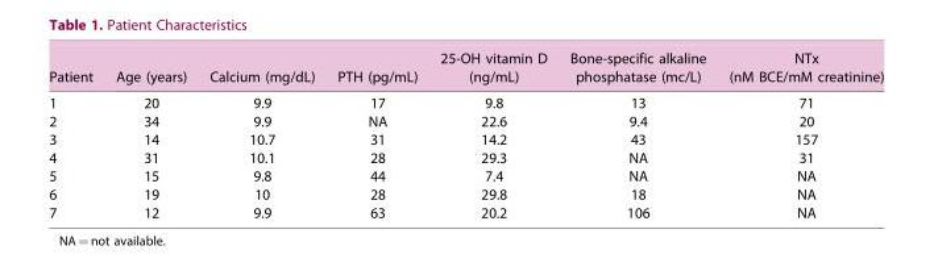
<table><thead><tr><td>Patient</td><td>Age (years)</td><td>Calcium (mg/dL)</td><td>PTH (pg/mL)</td><td>25-OH vitamin D (ng/mL)</td><td>Bone-specific alkaline phosphatase (mc/L)</td><td>NTx (nM BCE/mM creatinine)</td></tr></thead><tbody><tr><td>1</td><td>20</td><td>9.9</td><td>17</td><td>9.8</td><td>13</td><td>71</td></tr><tr><td>2</td><td>34</td><td>9.9</td><td>NA</td><td>22.6</td><td>9.4</td><td>20</td></tr><tr><td>3</td><td>14</td><td>10.7</td><td>31</td><td>14.2</td><td>43</td><td>157</td></tr><tr><td>4</td><td>31</td><td>10.1</td><td>28</td><td>29.3</td><td>NA</td><td>31</td></tr><tr><td>5</td><td>15</td><td>9.8</td><td>44</td><td>7.4</td><td>NA</td><td>NA</td></tr><tr><td>6</td><td>19</td><td>10</td><td>28</td><td>29.8</td><td>18</td><td>NA</td></tr><tr><td>7</td><td>12</td><td>9.9</td><td>63</td><td>20.2</td><td>106</td><td>NA</td></tr></tbody></table>